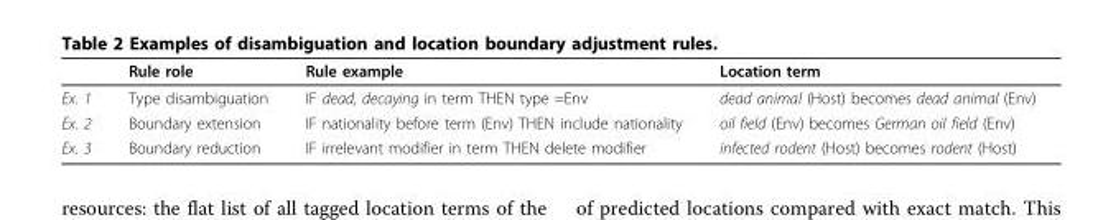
<table><thead><tr><td></td><td>Rule role</td><td>Rule example</td><td>Location term</td></tr></thead><tbody><tr><td>Ex. 1</td><td>Type disambiguation</td><td>IF dead, decaying in term THEN type =Env</td><td>dead animal (Host) becomes dead animal (Env)</td></tr><tr><td>Ex. 2</td><td>Boundary extension</td><td>IF nationality before term (Env) THEN include nationality</td><td>oil field (Env) becomes German oil field (Env)</td></tr><tr><td>Ex. 3</td><td>Boundary reduction</td><td>IF irrelevant modifier in term THEN delete modifier</td><td>infected rodent (Host) becomes rodent (Host)</td></tr></tbody></table>